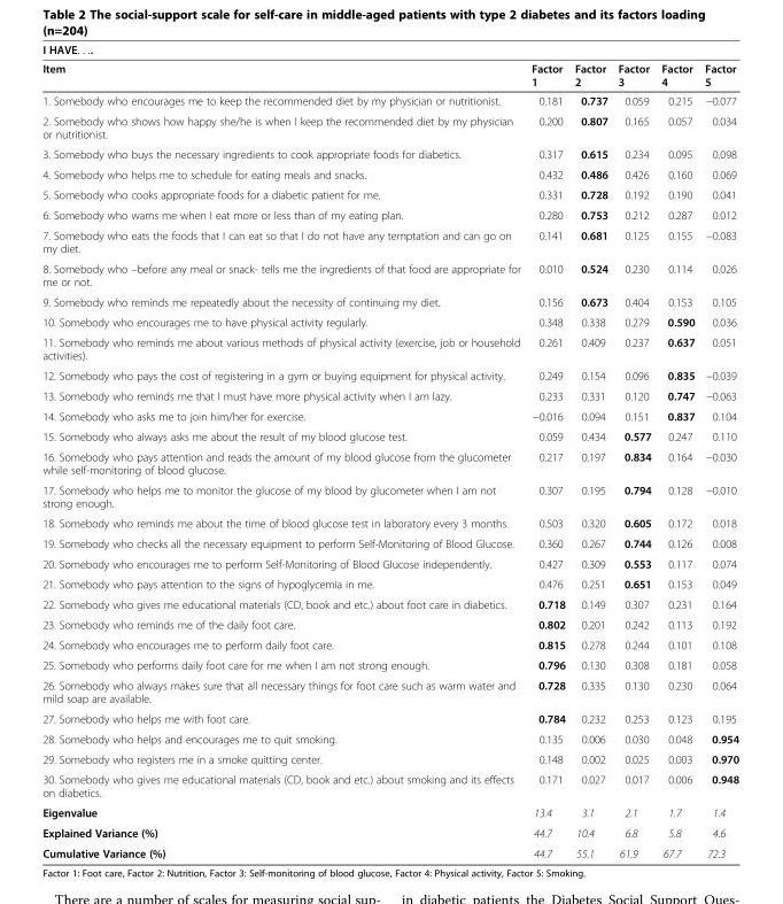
<table><thead><tr><td colspan="6">I HAVE. . ..</td></tr><tr><td>Item</td><td>Factor 1</td><td>Factor 2</td><td>Factor 3</td><td>Factor 4</td><td>Factor 5</td></tr></thead><tbody><tr><td>1. Somebody who encourages me to keep the recommended diet by my physician or nutritionist.</td><td>0.181</td><td>0.737</td><td>0.059</td><td>0.215</td><td>−0.077</td></tr><tr><td>2. Somebody who shows how happy she/he is when I keep the recommended diet by my physician or nutritionist.</td><td>0.200</td><td>0.807</td><td>0.165</td><td>0.057</td><td>0.034</td></tr><tr><td>3. Somebody who buys the necessary ingredients to cook appropriate foods for diabetics.</td><td>0.317</td><td>0.615</td><td>0.234</td><td>0.095</td><td>0.098</td></tr><tr><td>4. Somebody who helps me to schedule for eating meals and snacks.</td><td>0.432</td><td>0.486</td><td>0.426</td><td>0.160</td><td>0.069</td></tr><tr><td>5. Somebody who cooks appropriate foods for a diabetic patient for me.</td><td>0.331</td><td>0.728</td><td>0.192</td><td>0.190</td><td>0.041</td></tr><tr><td>6. Somebody who warns me when I eat more or less than of my eating plan.</td><td>0.280</td><td>0.753</td><td>0.212</td><td>0.287</td><td>0.012</td></tr><tr><td>7. Somebody who eats the foods that I can eat so that I do not have any temptation and can go on my diet.</td><td>0.141</td><td>0.681</td><td>0.125</td><td>0.155</td><td>−0.083</td></tr><tr><td>8. Somebody who –before any meal or snack- tells me the ingredients of that food are appropriate for me or not.</td><td>0.010</td><td>0.524</td><td>0.230</td><td>0.114</td><td>0.026</td></tr><tr><td>9. Somebody who reminds me repeatedly about the necessity of continuing my diet.</td><td>0.156</td><td>0.673</td><td>0.404</td><td>0.153</td><td>0.105</td></tr><tr><td>10. Somebody who encourages me to have physical activity regularly.</td><td>0.348</td><td>0.338</td><td>0.279</td><td>0.590</td><td>0.036</td></tr><tr><td>11. Somebody who reminds me about various methods of physical activity (exercise, job or household activities).</td><td>0.261</td><td>0.409</td><td>0.237</td><td>0.637</td><td>0.051</td></tr><tr><td>12. Somebody who pays the cost of registering in a gym or buying equipment for physical activity.</td><td>0.249</td><td>0.154</td><td>0.096</td><td>0.835</td><td>−0.039</td></tr><tr><td>13. Somebody who reminds me that I must have more physical activity when I am lazy.</td><td>0.233</td><td>0.331</td><td>0.120</td><td>0.747</td><td>−0.063</td></tr><tr><td>14. Somebody who asks me to join him/her for exercise.</td><td>−0.016</td><td>0.094</td><td>0.151</td><td>0.837</td><td>0.104</td></tr><tr><td>15. Somebody who always asks me about the result of my blood glucose test.</td><td>0.059</td><td>0.434</td><td>0.577</td><td>0.247</td><td>0.110</td></tr><tr><td>16. Somebody who pays attention and reads the amount of my blood glucose from the glucometer while self-monitoring of blood glucose.</td><td>0.217</td><td>0.197</td><td>0.834</td><td>0.164</td><td>−0.030</td></tr><tr><td>17. Somebody who helps me to monitor the glucose of my blood by glucometer when I am not strong enough.</td><td>0.307</td><td>0.195</td><td>0.794</td><td>0.128</td><td>−0.010</td></tr><tr><td>18. Somebody who reminds me about the time of blood glucose test in laboratory every 3 months.</td><td>0.503</td><td>0.320</td><td>0.605</td><td>0.172</td><td>0.018</td></tr><tr><td>19. Somebody who checks all the necessary equipment to perform Self-Monitoring of Blood Glucose.</td><td>0.360</td><td>0.267</td><td>0.744</td><td>0.126</td><td>0.008</td></tr><tr><td>20. Somebody who encourages me to perform Self-Monitoring of Blood Glucose independently.</td><td>0.427</td><td>0.309</td><td>0.553</td><td>0.117</td><td>0.074</td></tr><tr><td>21. Somebody who pays attention to the signs of hypoglycemia in me.</td><td>0.476</td><td>0.251</td><td>0.651</td><td>0.153</td><td>0.049</td></tr><tr><td>22. Somebody who gives me educational materials (CD, book and etc.) about foot care in diabetics.</td><td>0.718</td><td>0.149</td><td>0.307</td><td>0.231</td><td>0.164</td></tr><tr><td>23. Somebody who reminds me of the daily foot care.</td><td>0.802</td><td>0.201</td><td>0.242</td><td>0.113</td><td>0.192</td></tr><tr><td>24. Somebody who encourages me to perform daily foot care.</td><td>0.815</td><td>0.278</td><td>0.244</td><td>0.101</td><td>0.108</td></tr><tr><td>25. Somebody who performs daily foot care for me when I am not strong enough.</td><td>0.796</td><td>0.130</td><td>0.308</td><td>0.181</td><td>0.058</td></tr><tr><td>26. Somebody who always makes sure that all necessary things for foot care such as warm water and mild soap are available.</td><td>0.728</td><td>0.335</td><td>0.130</td><td>0.230</td><td>0.064</td></tr><tr><td>27. Somebody who helps me with foot care.</td><td>0.784</td><td>0.232</td><td>0.253</td><td>0.123</td><td>0.195</td></tr><tr><td>28. Somebody who helps and encourages me to quit smoking.</td><td>0.135</td><td>0.006</td><td>0.030</td><td>0.048</td><td>0.954</td></tr><tr><td>29. Somebody who registers me in a smoke quitting center.</td><td>0.148</td><td>0.002</td><td>0.025</td><td>0.003</td><td>0.970</td></tr><tr><td>30. Somebody who gives me educational materials (CD, book and etc.) about smoking and its effects on diabetics.</td><td>0.171</td><td>0.027</td><td>0.017</td><td>0.006</td><td>0.948</td></tr><tr><td>Eigenvalue</td><td>13.4</td><td>3.1</td><td>2.1</td><td>1.7</td><td>1.4</td></tr><tr><td>Explained Variance (%)</td><td>44.7</td><td>10.4</td><td>6.8</td><td>5.8</td><td>4.6</td></tr><tr><td>Cumulative Variance (%)</td><td>44.7</td><td>55.1</td><td>61.9</td><td>67.7</td><td>72.3</td></tr></tbody></table>